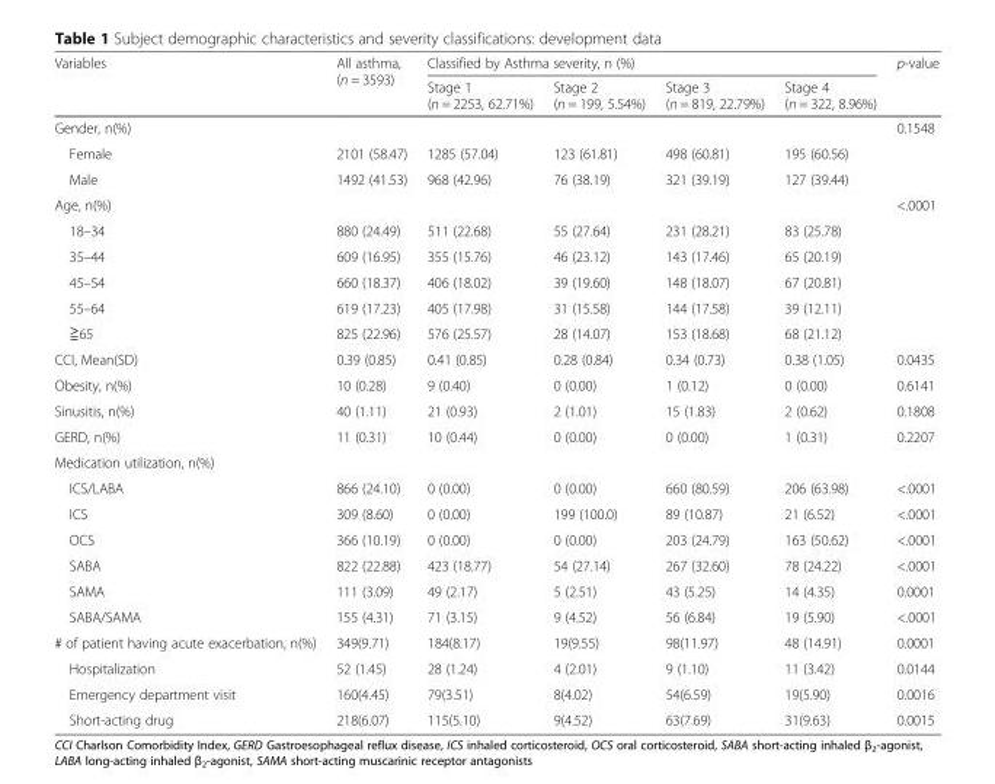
<table><thead><tr><td rowspan="2">Variables</td><td rowspan="2">All asthma, (n = 3593)</td><td colspan="4">Classified by Asthma severity, n (%)</td><td rowspan="2">p-value</td></tr><tr><td>Stage 1 (n = 2253, 62.71%)</td><td>Stage 2 (n = 199, 5.54%)</td><td>Stage 3 (n = 819, 22.79%)</td><td>Stage 4 (n = 322, 8.96%)</td></tr></thead><tbody><tr><td>Gender, n(%)</td><td></td><td></td><td></td><td></td><td></td><td>0.1548</td></tr><tr><td>Female</td><td>2101 (58.47)</td><td>1285 (57.04)</td><td>123 (61.81)</td><td>498 (60.81)</td><td>195 (60.56)</td><td></td></tr><tr><td>Male</td><td>1492 (41.53)</td><td>968 (42.96)</td><td>76 (38.19)</td><td>321 (39.19)</td><td>127 (39.44)</td><td></td></tr><tr><td>Age, n(%)</td><td></td><td></td><td></td><td></td><td></td><td>&lt;.0001</td></tr><tr><td>18–34</td><td>880 (24.49)</td><td>511 (22.68)</td><td>55 (27.64)</td><td>231 (28.21)</td><td>83 (25.78)</td><td></td></tr><tr><td>35–44</td><td>609 (16.95)</td><td>355 (15.76)</td><td>46 (23.12)</td><td>143 (17.46)</td><td>65 (20.19)</td><td></td></tr><tr><td>45–54</td><td>660 (18.37)</td><td>406 (18.02)</td><td>39 (19.60)</td><td>148 (18.07)</td><td>67 (20.81)</td><td></td></tr><tr><td>55–64</td><td>619 (17.23)</td><td>405 (17.98)</td><td>31 (15.58)</td><td>144 (17.58)</td><td>39 (12.11)</td><td></td></tr><tr><td>≧65</td><td>825 (22.96)</td><td>576 (25.57)</td><td>28 (14.07)</td><td>153 (18.68)</td><td>68 (21.12)</td><td></td></tr><tr><td>CCI, Mean(SD)</td><td>0.39 (0.85)</td><td>0.41 (0.85)</td><td>0.28 (0.84)</td><td>0.34 (0.73)</td><td>0.38 (1.05)</td><td>0.0435</td></tr><tr><td>Obesity, n(%)</td><td>10 (0.28)</td><td>9 (0.40)</td><td>0 (0.00)</td><td>1 (0.12)</td><td>0 (0.00)</td><td>0.6141</td></tr><tr><td>Sinusitis, n(%)</td><td>40 (1.11)</td><td>21 (0.93)</td><td>2 (1.01)</td><td>15 (1.83)</td><td>2 (0.62)</td><td>0.1808</td></tr><tr><td>GERD, n(%)</td><td>11 (0.31)</td><td>10 (0.44)</td><td>0 (0.00)</td><td>0 (0.00)</td><td>1 (0.31)</td><td>0.2207</td></tr><tr><td colspan="7">Medication utilization, n(%)</td></tr><tr><td>ICS/LABA</td><td>866 (24.10)</td><td>0 (0.00)</td><td>0 (0.00)</td><td>660 (80.59)</td><td>206 (63.98)</td><td>&lt;.0001</td></tr><tr><td>ICS</td><td>309 (8.60)</td><td>0 (0.00)</td><td>199 (100.0)</td><td>89 (10.87)</td><td>21 (6.52)</td><td>&lt;.0001</td></tr><tr><td>OCS</td><td>366 (10.19)</td><td>0 (0.00)</td><td>0 (0.00)</td><td>203 (24.79)</td><td>163 (50.62)</td><td>&lt;.0001</td></tr><tr><td>SABA</td><td>822 (22.88)</td><td>423 (18.77)</td><td>54 (27.14)</td><td>267 (32.60)</td><td>78 (24.22)</td><td>&lt;.0001</td></tr><tr><td>SAMA</td><td>111 (3.09)</td><td>49 (2.17)</td><td>5 (2.51)</td><td>43 (5.25)</td><td>14 (4.35)</td><td>0.0001</td></tr><tr><td>SABA/SAMA</td><td>155 (4.31)</td><td>71 (3.15)</td><td>9 (4.52)</td><td>56 (6.84)</td><td>19 (5.90)</td><td>&lt;.0001</td></tr><tr><td># of patient having acute exacerbation, n(%)</td><td>349(9.71)</td><td>184(8.17)</td><td>19(9.55)</td><td>98(11.97)</td><td>48 (14.91)</td><td>0.0001</td></tr><tr><td>Hospitalization</td><td>52 (1.45)</td><td>28 (1.24)</td><td>4 (2.01)</td><td>9 (1.10)</td><td>11 (3.42)</td><td>0.0144</td></tr><tr><td>Emergency department visit</td><td>160(4.45)</td><td>79(3.51)</td><td>8(4.02)</td><td>54(6.59)</td><td>19(5.90)</td><td>0.0016</td></tr><tr><td>Short-acting drug</td><td>218(6.07)</td><td>115(5.10)</td><td>9(4.52)</td><td>63(7.69)</td><td>31(9.63)</td><td>0.0015</td></tr></tbody></table>